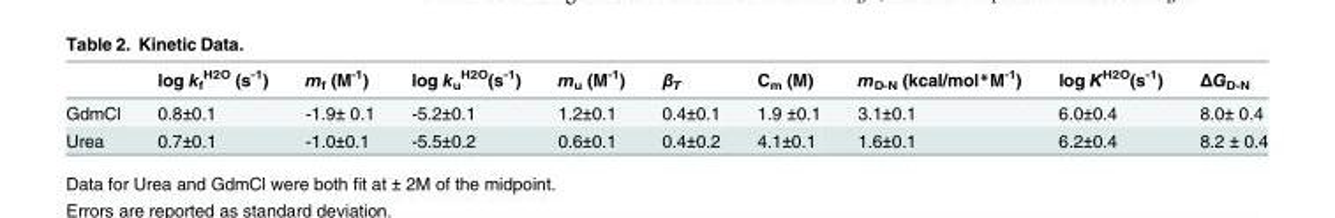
<table><thead><tr><td></td><td>log k<sub>f</sub> <sup>H2O</sup> (s<sup>-1</sup>)</td><td>m<sub>f</sub> (M<sup>-1</sup>)</td><td>log k<sub>u</sub> <sup>H2O</sup>(s<sup>-1</sup>)</td><td>m<sub>u</sub> (M<sup>-1</sup>)</td><td>β<sub>T</sub></td><td>C<sub>m</sub> (M)</td><td>m<sub>D-N</sub> (kcal/mol*M<sup>-1</sup>)</td><td>log K<sup>H2O</sup>(s<sup>-1</sup>)</td><td>ΔG<sub>D-N</sub></td></tr></thead><tbody><tr><td>GdmCl</td><td>0.8±0.1</td><td>-1.9± 0.1</td><td>-5.2±0.1</td><td>1.2±0.1</td><td>0.4±0.1</td><td>1.9 ±0.1</td><td>3.1±0.1</td><td>6.0±0.4</td><td>8.0± 0.4</td></tr><tr><td>Urea</td><td>0.7±0.1</td><td>-1.0±0.1</td><td>-5.5±0.2</td><td>0.6±0.1</td><td>0.4±0.2</td><td>4.1±0.1</td><td>1.6±0.1</td><td>6.2±0.4</td><td>8.2 ± 0.4</td></tr></tbody></table>